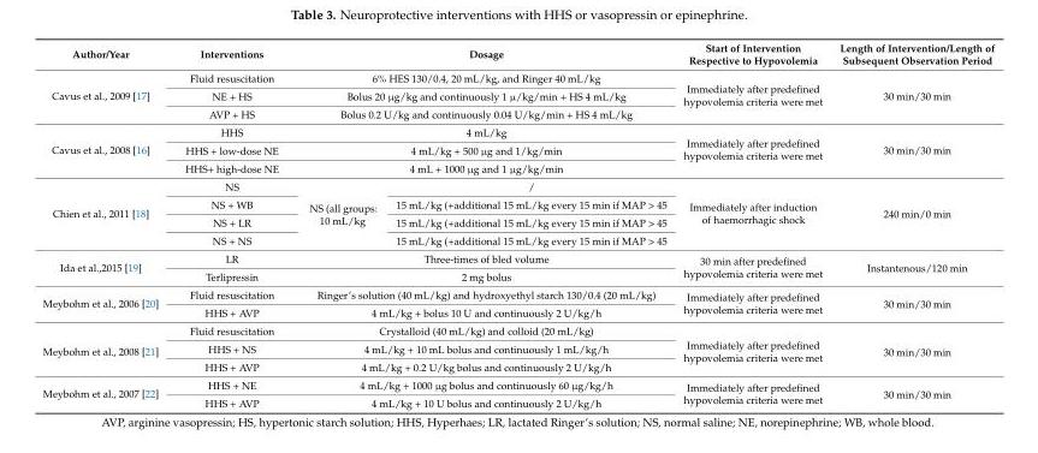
<table><thead><tr><td>Author/Year</td><td>Interventions</td><td colspan="2">Dosage</td><td>Start of Intervention Respective to Hypovolemia</td><td>Length of Intervention/Length of Subsequent Observation Period</td></tr></thead><tbody><tr><td rowspan="3">Cavus et al., 2009 [17]</td><td>Fluid resuscitation</td><td colspan="2">6% HES 130/0.4, 20 mL/kg, and Ringer 40 mL/kg</td><td rowspan="3">Immediately after predefined hypovolemia criteria were met</td><td rowspan="3">30 min/30 min</td></tr><tr><td>NE + HS</td><td colspan="2">Bolus 20 µg/kg and continuously 1 µ/kg/min + HS 4 mL/kg</td></tr><tr><td>AVP + HS</td><td colspan="2">Bolus 0.2 U/kg and continuously 0.04 U/kg/min + HS 4 mL/kg</td></tr><tr><td rowspan="3">Cavus et al., 2008 [16]</td><td>HHS</td><td colspan="2">4 mL/kg</td><td rowspan="3">Immediately after predefined hypovolemia criteria were met</td><td rowspan="3">30 min/30 min</td></tr><tr><td>HHS + low-dose NE</td><td colspan="2">4 mL/kg + 500 µg and 1/kg/min</td></tr><tr><td>HHS+ high-dose NE</td><td colspan="2">4 mL + 1000 µg and 1 µg/kg/min</td></tr><tr><td rowspan="4">Chien et al., 2011 [18]</td><td>NS</td><td rowspan="4">NS (all groups: 10 mL/kg</td><td>/</td><td rowspan="4">Immediately after induction of haemorrhagic shock</td><td rowspan="4">240 min/0 min</td></tr><tr><td>NS + WB</td><td>15 mL/kg (+additional 15 mL/kg every 15 min if MAP &gt; 45</td></tr><tr><td>NS + LR</td><td>15 mL/kg (+additional 15 mL/kg every 15 min if MAP &gt; 45</td></tr><tr><td>NS + NS</td><td>15 mL/kg (+additional 15 mL/kg every 15 min if MAP &gt; 45</td></tr><tr><td rowspan="2">Ida et al.,2015 [19]</td><td>LR</td><td colspan="2">Three-times of bled volume</td><td rowspan="2">30 min after predefined hypovolemia criteria were met</td><td rowspan="2">Instantenous/120 min</td></tr><tr><td>Terlipressin</td><td colspan="2">2 mg bolus</td></tr><tr><td rowspan="2">Meybohm et al., 2006 [20]</td><td>Fluid resuscitation</td><td colspan="2">Ringer’s solution (40 mL/kg) and hydroxyethyl starch 130/0.4 (20 mL/kg)</td><td rowspan="2">Immediately after predefined hypovolemia criteria were met</td><td rowspan="2">30 min/30 min</td></tr><tr><td>HHS + AVP</td><td colspan="2">4 mL/kg + bolus 10 U and continuously 2 U/kg/h</td></tr><tr><td rowspan="3">Meybohm et al., 2008 [21]</td><td>Fluid resuscitation</td><td colspan="2">Crystalloid (40 mL/kg) and colloid (20 mL/kg)</td><td rowspan="3">Immediately after predefined hypovolemia criteria were met</td><td rowspan="3">30 min/30 min</td></tr><tr><td>HHS + NS</td><td colspan="2">4 mL/kg + 10 mL bolus and continuously 1 mL/kg/h</td></tr><tr><td>HHS + AVP</td><td colspan="2">4 mL/kg + 0.2 U/kg bolus and continuously 2 U/kg/h</td></tr><tr><td rowspan="2">Meybohm et al., 2007 [22]</td><td>HHS + NE</td><td colspan="2">4 mL/kg + 1000 µg bolus and continuously 60 µg/kg/h</td><td rowspan="2">Immediately after predefined hypovolemia criteria were met</td><td rowspan="2">30 min/30 min</td></tr><tr><td>HHS + AVP</td><td colspan="2">4 mL/kg + 10 U bolus and continuously 2 U/kg/h</td></tr></tbody></table>